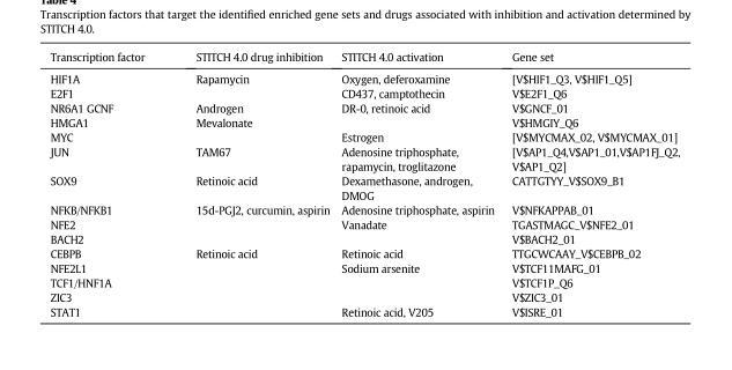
<table><thead><tr><td>Transcription factor</td><td>STITCH 4.0 drug inhibition</td><td>STITCH 4.0 activation</td><td>Gene set</td></tr></thead><tbody><tr><td>HIF1A</td><td>Rapamycin</td><td>Oxygen, deferoxamine</td><td>[V$HIF1_Q3, V$HIF1_Q5]</td></tr><tr><td>E2F1</td><td></td><td>CD437, camptothecin</td><td>V$E2F1_Q6</td></tr><tr><td>NR6A1 GCNF</td><td>Androgen</td><td>DR-0, retinoic acid</td><td>V$GNCF_01</td></tr><tr><td>HMGA1</td><td>Mevalonate</td><td></td><td>V$HMGIY_Q6</td></tr><tr><td>MYC</td><td></td><td>Estrogen</td><td>[V$MYCMAX_02, V$MYCMAX_01]</td></tr><tr><td>JUN</td><td>TAM67</td><td>Adenosine triphosphate, rapamycin, troglitazone</td><td>[V$AP1_Q4,V$AP1_01,V$AP1FJ_Q2, V$AP1_Q2]</td></tr><tr><td>SOX9</td><td>Retinoic acid</td><td>Dexamethasone, androgen, DMOG</td><td>CATTGTYY_V$SOX9_B1</td></tr><tr><td>NFKB/NFKB1</td><td>15d-PGJ2, curcumin, aspirin</td><td>Adenosine triphosphate, aspirin</td><td>V$NFKAPPAB_01</td></tr><tr><td>NFE2</td><td></td><td>Vanadate</td><td>TGASTMAGC_V$NFE2_01</td></tr><tr><td>BACH2</td><td></td><td></td><td>V$BACH2_01</td></tr><tr><td>CEBPB</td><td>Retinoic acid</td><td>Retinoic acid</td><td>TTGCWCAAY_V$CEBPB_02</td></tr><tr><td>NFE2L1</td><td></td><td>Sodium arsenite</td><td>V$TCF11MAFG_01</td></tr><tr><td>TCF1/HNF1A</td><td></td><td></td><td>V$TCF1P_Q6</td></tr><tr><td>ZIC3</td><td></td><td></td><td>V$ZIC3_01</td></tr><tr><td>STAT1</td><td></td><td>Retinoic acid, V205</td><td>V$ISRE_01</td></tr></tbody></table>